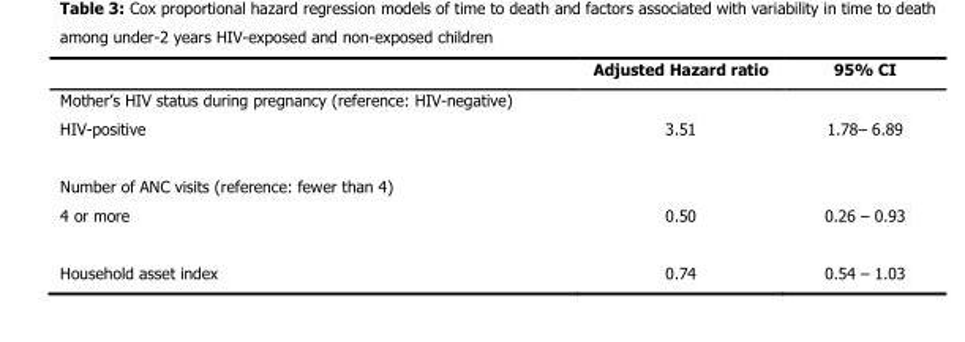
<table><thead><tr><td></td><td>Adjusted Hazard ratio</td><td>95% CI</td></tr></thead><tbody><tr><td colspan="3">Mother’s HIV status during pregnancy (reference: HIV-negative)</td></tr><tr><td>HIV-positive</td><td>3.51</td><td>1.78– 6.89</td></tr><tr><td colspan="3">Number of ANC visits (reference: fewer than 4)</td></tr><tr><td>4 or more</td><td>0.50</td><td>0.26 – 0.93</td></tr><tr><td>Household asset index</td><td>0.74</td><td>0.54 – 1.03</td></tr></tbody></table>